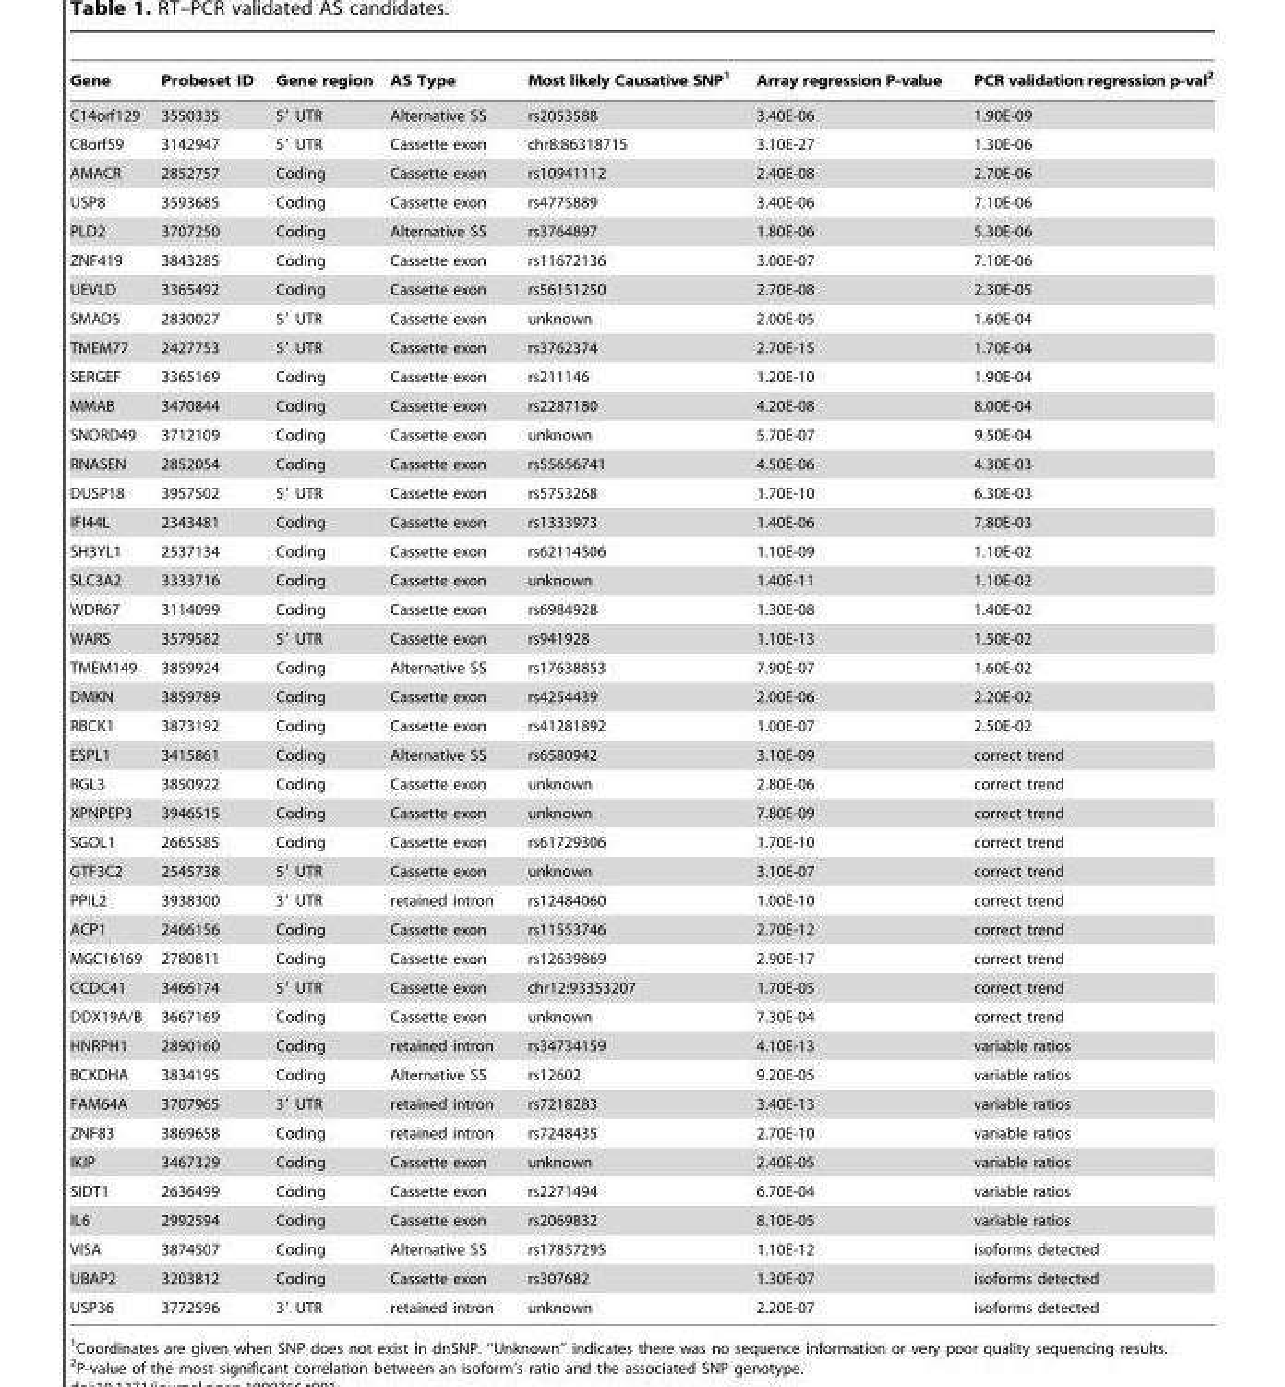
<table><thead><tr><td>Gene</td><td>Probeset ID</td><td>Gene region</td><td>AS Type</td><td>Most likely Causative SNP<sup>1</sup></td><td>Array regression P-value</td><td>PCR validation regression p-val<sup>2</sup></td></tr></thead><tbody><tr><td>C14orf129</td><td>3550335</td><td>5′ UTR</td><td>Alternative SS</td><td>rs2053588</td><td>3.40E-06</td><td>1.90E-09</td></tr><tr><td>C8orf59</td><td>3142947</td><td>5′ UTR</td><td>Cassette exon</td><td>chr8:86318715</td><td>3.10E-27</td><td>1.30E-06</td></tr><tr><td>AMACR</td><td>2852757</td><td>Coding</td><td>Cassette exon</td><td>rs10941112</td><td>2.40E-08</td><td>2.70E-06</td></tr><tr><td>USP8</td><td>3593685</td><td>Coding</td><td>Cassette exon</td><td>rs4775889</td><td>3.40E-06</td><td>7.10E-06</td></tr><tr><td>PLD2</td><td>3707250</td><td>Coding</td><td>Alternative SS</td><td>rs3764897</td><td>1.80E-06</td><td>5.30E-06</td></tr><tr><td>ZNF419</td><td>3843285</td><td>Coding</td><td>Cassette exon</td><td>rs11672136</td><td>3.00E-07</td><td>7.10E-06</td></tr><tr><td>UEVLD</td><td>3365492</td><td>Coding</td><td>Cassette exon</td><td>rs56151250</td><td>2.70E-08</td><td>2.30E-05</td></tr><tr><td>SMAD5</td><td>2830027</td><td>5′ UTR</td><td>Cassette exon</td><td>unknown</td><td>2.00E-05</td><td>1.60E-04</td></tr><tr><td>TMEM77</td><td>2427753</td><td>5′ UTR</td><td>Cassette exon</td><td>rs3762374</td><td>2.70E-15</td><td>1.70E-04</td></tr><tr><td>SERGEF</td><td>3365169</td><td>Coding</td><td>Cassette exon</td><td>rs211146</td><td>1.20E-10</td><td>1.90E-04</td></tr><tr><td>MMAB</td><td>3470844</td><td>Coding</td><td>Cassette exon</td><td>rs2287180</td><td>4.20E-08</td><td>8.00E-04</td></tr><tr><td>SNORD49</td><td>3712109</td><td>Coding</td><td>Cassette exon</td><td>unknown</td><td>5.70E-07</td><td>9.50E-04</td></tr><tr><td>RNASEN</td><td>2852054</td><td>Coding</td><td>Cassette exon</td><td>rs55656741</td><td>4.50E-06</td><td>4.30E-03</td></tr><tr><td>DUSP18</td><td>3957502</td><td>5′ UTR</td><td>Cassette exon</td><td>rs5753268</td><td>1.70E-10</td><td>6.30E-03</td></tr><tr><td>IFI44L</td><td>2343481</td><td>Coding</td><td>Cassette exon</td><td>rs1333973</td><td>1.40E-06</td><td>7.80E-03</td></tr><tr><td>SH3YL1</td><td>2537134</td><td>Coding</td><td>Cassette exon</td><td>rs62114506</td><td>1.10E-09</td><td>1.10E-02</td></tr><tr><td>SLC3A2</td><td>3333716</td><td>Coding</td><td>Cassette exon</td><td>unknown</td><td>1.40E-11</td><td>1.10E-02</td></tr><tr><td>WDR67</td><td>3114099</td><td>Coding</td><td>Cassette exon</td><td>rs6984928</td><td>1.30E-08</td><td>1.40E-02</td></tr><tr><td>WARS</td><td>3579582</td><td>5′ UTR</td><td>Cassette exon</td><td>rs941928</td><td>1.10E-13</td><td>1.50E-02</td></tr><tr><td>TMEM149</td><td>3859924</td><td>Coding</td><td>Alternative SS</td><td>rs17638853</td><td>7.90E-07</td><td>1.60E-02</td></tr><tr><td>DMKN</td><td>3859789</td><td>Coding</td><td>Cassette exon</td><td>rs4254439</td><td>2.00E-06</td><td>2.20E-02</td></tr><tr><td>RBCK1</td><td>3873192</td><td>Coding</td><td>Cassette exon</td><td>rs41281892</td><td>1.00E-07</td><td>2.50E-02</td></tr><tr><td>ESPL1</td><td>3415861</td><td>Coding</td><td>Alternative SS</td><td>rs6580942</td><td>3.10E-09</td><td>correct trend</td></tr><tr><td>RGL3</td><td>3850922</td><td>Coding</td><td>Cassette exon</td><td>unknown</td><td>2.80E-06</td><td>correct trend</td></tr><tr><td>XPNPEP3</td><td>3946515</td><td>Coding</td><td>Cassette exon</td><td>unknown</td><td>7.80E-09</td><td>correct trend</td></tr><tr><td>SGOL1</td><td>2665585</td><td>Coding</td><td>Cassette exon</td><td>rs61729306</td><td>1.70E-10</td><td>correct trend</td></tr><tr><td>GTF3C2</td><td>2545738</td><td>5′ UTR</td><td>Cassette exon</td><td>unknown</td><td>3.10E-07</td><td>correct trend</td></tr><tr><td>PPIL2</td><td>3938300</td><td>3′ UTR</td><td>retained intron</td><td>rs12484060</td><td>1.00E-10</td><td>correct trend</td></tr><tr><td>ACP1</td><td>2466156</td><td>Coding</td><td>Cassette exon</td><td>rs11553746</td><td>2.70E-12</td><td>correct trend</td></tr><tr><td>MGC16169</td><td>2780811</td><td>Coding</td><td>Cassette exon</td><td>rs12639869</td><td>2.90E-17</td><td>correct trend</td></tr><tr><td>CCDC41</td><td>3466174</td><td>5′ UTR</td><td>Cassette exon</td><td>chr12:93353207</td><td>1.70E-05</td><td>correct trend</td></tr><tr><td>DDX19A/B</td><td>3667169</td><td>Coding</td><td>Cassette exon</td><td>unknown</td><td>7.30E-04</td><td>correct trend</td></tr><tr><td>HNRPH1</td><td>2890160</td><td>Coding</td><td>retained intron</td><td>rs34734159</td><td>4.10E-13</td><td>variable ratios</td></tr><tr><td>BCKDHA</td><td>3834195</td><td>Coding</td><td>Alternative SS</td><td>rs12602</td><td>9.20E-05</td><td>variable ratios</td></tr><tr><td>FAM64A</td><td>3707965</td><td>3′ UTR</td><td>retained intron</td><td>rs7218283</td><td>3.40E-13</td><td>variable ratios</td></tr><tr><td>ZNF83</td><td>3869658</td><td>Coding</td><td>retained intron</td><td>rs7248435</td><td>2.70E-10</td><td>variable ratios</td></tr><tr><td>IKIP</td><td>3467329</td><td>Coding</td><td>Cassette exon</td><td>unknown</td><td>2.40E-05</td><td>variable ratios</td></tr><tr><td>SIDT1</td><td>2636499</td><td>Coding</td><td>Cassette exon</td><td>rs2271494</td><td>6.70E-04</td><td>variable ratios</td></tr><tr><td>IL6</td><td>2992594</td><td>Coding</td><td>Cassette exon</td><td>rs2069832</td><td>8.10E-05</td><td>variable ratios</td></tr><tr><td>VISA</td><td>3874507</td><td>Coding</td><td>Alternative SS</td><td>rs17857295</td><td>1.10E-12</td><td>isoforms detected</td></tr><tr><td>UBAP2</td><td>3203812</td><td>Coding</td><td>Cassette exon</td><td>rs307682</td><td>1.30E-07</td><td>isoforms detected</td></tr><tr><td>USP36</td><td>3772596</td><td>3′ UTR</td><td>retained intron</td><td>unknown</td><td>2.20E-07</td><td>isoforms detected</td></tr></tbody></table>